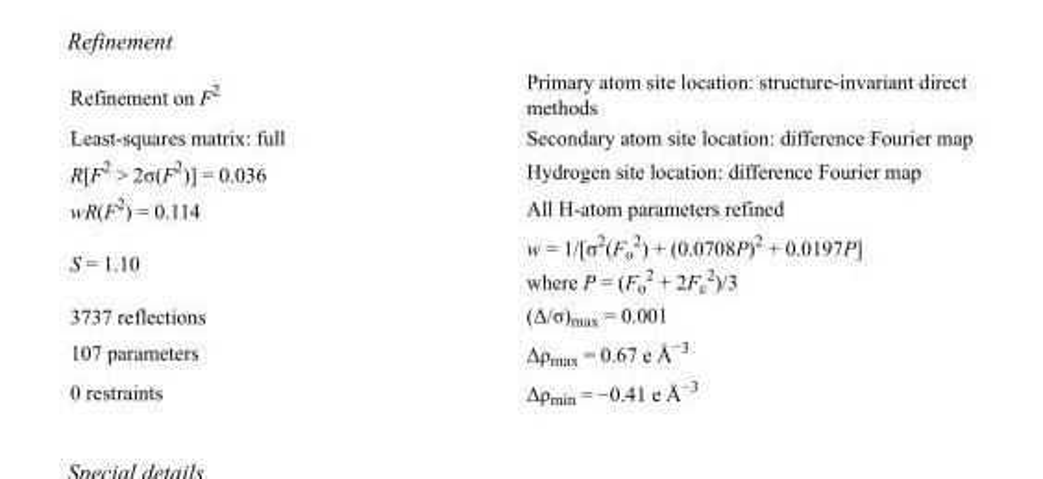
<table><tbody><tr><td>Refinement on F<sup>2</sup></td><td>Primary atom site location: structure-invariant direct methods</td></tr><tr><td>Least-squares matrix: full</td><td>Secondary atom site location: difference Fourier map</td></tr><tr><td>R[F<sup>2</sup> &gt; 2σ(F<sup>2</sup>)] = 0.036</td><td>Hydrogen site location: difference Fourier map</td></tr><tr><td>wR(F<sup>2</sup>) = 0.114</td><td>All H-atom parameters refined</td></tr><tr><td>S = 1.10</td><td>w = 1/[σ<sup>2</sup>(F<sub>o</sub> <sup>2</sup>) + (0.0708P)<sup>2</sup> + 0.0197P] where P = (F<sub>o</sub> <sup>2</sup> + 2F<sub>c</sub> <sup>2</sup>)/3</td></tr><tr><td>3737 reflections</td><td>(Δ/σ)<sub>max</sub> = 0.001</td></tr><tr><td>107 parameters</td><td>Δρ<sub>max</sub> = 0.67 e Å<sup>−3</sup></td></tr><tr><td>0 restraints</td><td>Δρ<sub>min</sub> = −0.41 e Å<sup>−3</sup></td></tr></tbody></table>